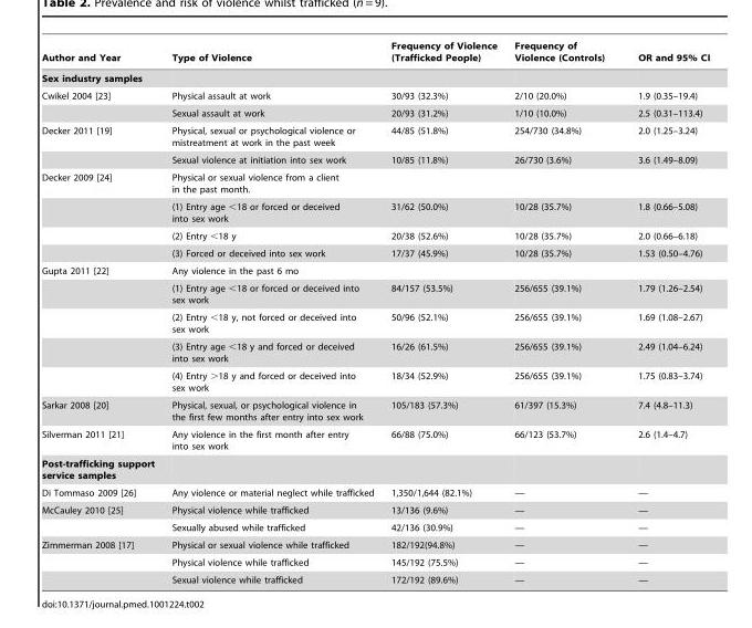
<table><thead><tr><td>Author and Year</td><td>Type of Violence</td><td>Frequency of Violence (Trafficked People)</td><td>Frequency of Violence (Controls)</td><td>OR and 95% CI</td></tr></thead><tbody><tr><td colspan="5">Sex industry samples</td></tr><tr><td rowspan="2">Cwikel 2004 [23]</td><td>Physical assault at work</td><td>30/93 (32.3%)</td><td>2/10 (20.0%)</td><td>1.9 (0.35–19.4)</td></tr><tr><td>Sexual assault at work</td><td>20/93 (31.2%)</td><td>1/10 (10.0%)</td><td>2.5 (0.31–113.4)</td></tr><tr><td rowspan="2">Decker 2011 [19]</td><td>Physical, sexual or psychological violence or mistreatment at work in the past week</td><td>44/85 (51.8%)</td><td>254/730 (34.8%)</td><td>2.0 (1.25–3.24)</td></tr><tr><td>Sexual violence at initiation into sex work</td><td>10/85 (11.8%)</td><td>26/730 (3.6%)</td><td>3.6 (1.49–8.09)</td></tr><tr><td rowspan="4">Decker 2009 [24]</td><td>Physical or sexual violence from a client in the past month.</td><td></td><td></td><td></td></tr><tr><td>(1) Entry age &lt;18 or forced or deceived into sex work</td><td>31/62 (50.0%)</td><td>10/28 (35.7%)</td><td>1.8 (0.66–5.08)</td></tr><tr><td>(2) Entry &lt;18 y</td><td>20/38 (52.6%)</td><td>10/28 (35.7%)</td><td>2.0 (0.66–6.18)</td></tr><tr><td>(3) Forced or deceived into sex work</td><td>17/37 (45.9%)</td><td>10/28 (35.7%)</td><td>1.53 (0.50–4.76)</td></tr><tr><td rowspan="5">Gupta 2011 [22]</td><td>Any violence in the past 6 mo</td><td></td><td></td><td></td></tr><tr><td>(1) Entry age &lt;18 or forced or deceived into sex work</td><td>84/157 (53.5%)</td><td>256/655 (39.1%)</td><td>1.79 (1.26–2.54)</td></tr><tr><td>(2) Entry &lt;18 y, not forced or deceived into sex work</td><td>50/96 (52.1%)</td><td>256/655 (39.1%)</td><td>1.69 (1.08–2.67)</td></tr><tr><td>(3) Entry age &lt;18 y and forced or deceived into sex work</td><td>16/26 (61.5%)</td><td>256/655 (39.1%)</td><td>2.49 (1.04–6.24)</td></tr><tr><td>(4) Entry &gt;18 y and forced or deceived into sex work</td><td>18/34 (52.9%)</td><td>256/655 (39.1%)</td><td>1.75 (0.83–3.74)</td></tr><tr><td>Sarkar 2008 [20]</td><td>Physical, sexual, or psychological violence in the first few months after entry into sex work</td><td>105/183 (57.3%)</td><td>61/397 (15.3%)</td><td>7.4 (4.8–11.3)</td></tr><tr><td>Silverman 2011 [21]</td><td>Any violence in the first month after entry into sex work</td><td>66/88 (75.0%)</td><td>66/123 (53.7%)</td><td>2.6 (1.4–4.7)</td></tr><tr><td colspan="5">Post-trafficking support service samples</td></tr><tr><td>Di Tommaso 2009 [26]</td><td>Any violence or material neglect while trafficked</td><td>1,350/1,644 (82.1%)</td><td>—</td><td>—</td></tr><tr><td rowspan="2">McCauley 2010 [25]</td><td>Physical violence while trafficked</td><td>13/136 (9.6%)</td><td>—</td><td>—</td></tr><tr><td>Sexually abused while trafficked</td><td>42/136 (30.9%)</td><td>—</td><td>—</td></tr><tr><td rowspan="3">Zimmerman 2008 [17]</td><td>Physical or sexual violence while trafficked</td><td>182/192(94.8%)</td><td>—</td><td>—</td></tr><tr><td>Physical violence while trafficked</td><td>145/192 (75.5%)</td><td>—</td><td>—</td></tr><tr><td>Sexual violence while trafficked</td><td>172/192 (89.6%)</td><td>—</td><td>—</td></tr></tbody></table>